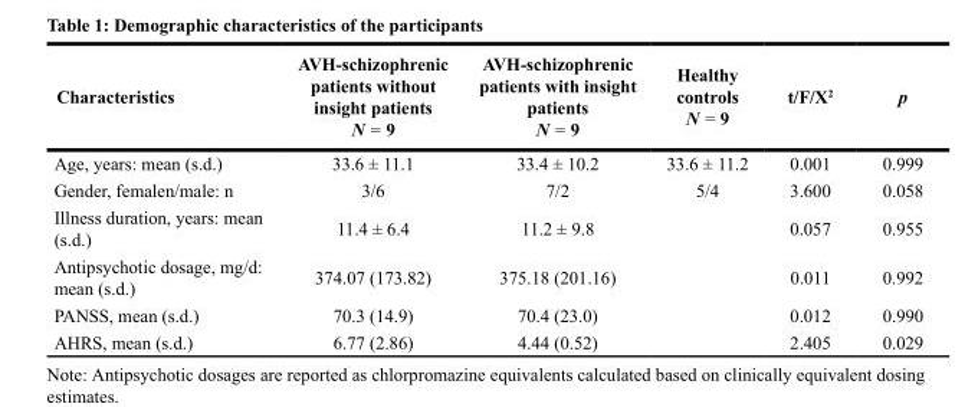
<table><thead><tr><td>Characteristics</td><td>AVH-schizophrenic patients without insight patients N = 9</td><td>AVH-schizophrenic patients with insight patients N = 9</td><td>Healthy controls N = 9</td><td>t/F/Χ<sup>2</sup></td><td>p</td></tr></thead><tbody><tr><td>Age, years: mean (s.d.)</td><td>33.6 ± 11.1</td><td>33.4 ± 10.2</td><td>33.6 ± 11.2</td><td>0.001</td><td>0.999</td></tr><tr><td>Gender, femalen/male: n</td><td>3/6</td><td>7/2</td><td>5/4</td><td>3.600</td><td>0.058</td></tr><tr><td>Illness duration, years: mean (s.d.)</td><td>11.4 ± 6.4</td><td>11.2 ± 9.8</td><td></td><td>0.057</td><td>0.955</td></tr><tr><td>Antipsychotic dosage, mg/d: mean (s.d.)</td><td>374.07 (173.82)</td><td>375.18 (201.16)</td><td></td><td>0.011</td><td>0.992</td></tr><tr><td>PANSS, mean (s.d.)</td><td>70.3 (14.9)</td><td>70.4 (23.0)</td><td></td><td>0.012</td><td>0.990</td></tr><tr><td>AHRS, mean (s.d.)</td><td>6.77 (2.86)</td><td>4.44 (0.52)</td><td></td><td>2.405</td><td>0.029</td></tr></tbody></table>